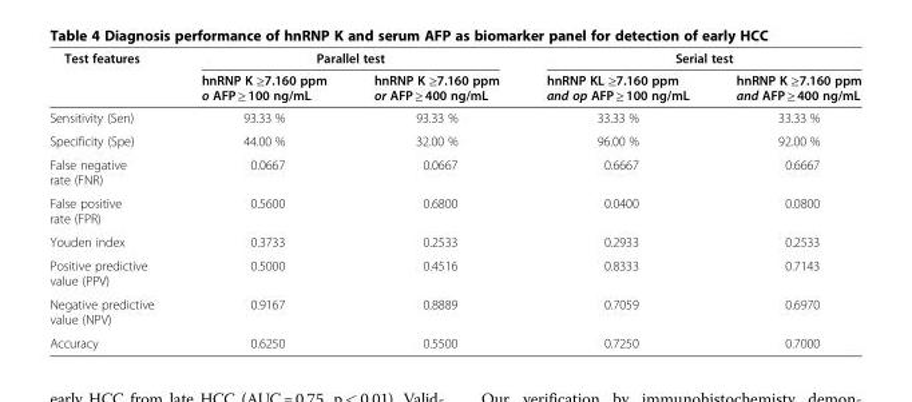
<table><thead><tr><td rowspan="2">Test features</td><td colspan="2">Parallel test</td><td colspan="2">Serial test</td></tr><tr><td>hnRNP K ≥7.160 ppm o AFP ≥ 100 ng/mL</td><td>hnRNP K ≥7.160 ppm or AFP ≥ 400 ng/mL</td><td>hnRNP KL ≥7.160 ppm and op AFP ≥ 100 ng/mL</td><td>hnRNP K ≥7.160 ppm and AFP ≥ 400 ng/mL</td></tr></thead><tbody><tr><td>Sensitivity (Sen)</td><td>93.33 %</td><td>93.33 %</td><td>33.33 %</td><td>33.33 %</td></tr><tr><td>Specificity (Spe)</td><td>44.00 %</td><td>32.00 %</td><td>96.00 %</td><td>92.00 %</td></tr><tr><td>False negative rate (FNR)</td><td>0.0667</td><td>0.0667</td><td>0.6667</td><td>0.6667</td></tr><tr><td>False positive rate (FPR)</td><td>0.5600</td><td>0.6800</td><td>0.0400</td><td>0.0800</td></tr><tr><td>Youden index</td><td>0.3733</td><td>0.2533</td><td>0.2933</td><td>0.2533</td></tr><tr><td>Positive predictive value (PPV)</td><td>0.5000</td><td>0.4516</td><td>0.8333</td><td>0.7143</td></tr><tr><td>Negative predictive value (NPV)</td><td>0.9167</td><td>0.8889</td><td>0.7059</td><td>0.6970</td></tr><tr><td>Accuracy</td><td>0.6250</td><td>0.5500</td><td>0.7250</td><td>0.7000</td></tr></tbody></table>